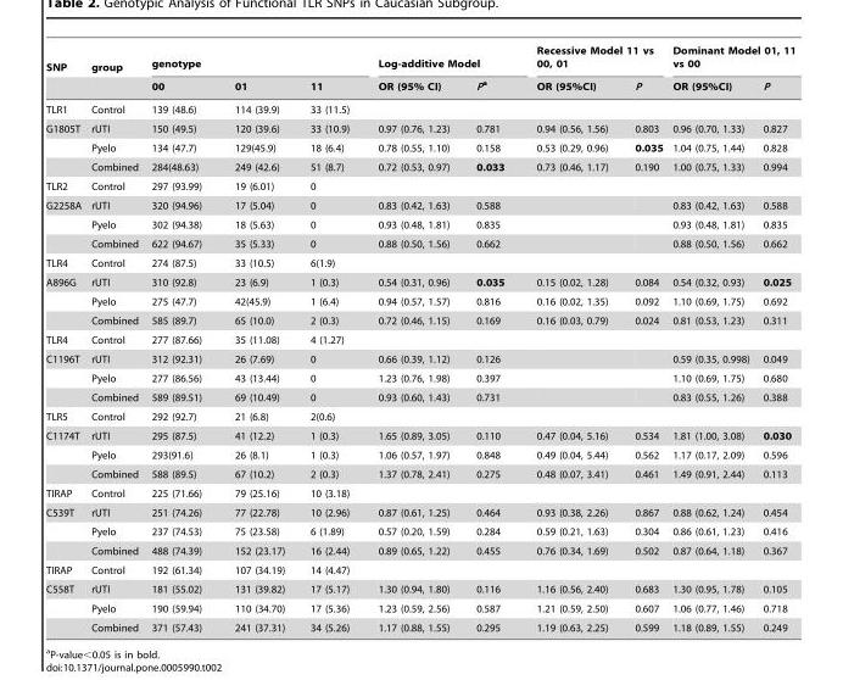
<table><thead><tr><td rowspan="2">SNP</td><td rowspan="2">group</td><td colspan="3">genotype</td><td colspan="2">Log-additive Model</td><td colspan="2">Recessive Model 11 vs 00, 01</td><td colspan="2">Dominant Model 01, 11 vs 00</td></tr><tr><td>00</td><td>01</td><td>11</td><td>OR (95% CI)</td><td>Pa</td><td>OR (95%CI)</td><td>P</td><td>OR (95%CI)</td><td>P</td></tr></thead><tbody><tr><td>TLR1</td><td>Control</td><td>139 (48.6)</td><td>114 (39.9)</td><td>33 (11.5)</td><td></td><td></td><td></td><td></td><td></td><td></td></tr><tr><td rowspan="3">G1805T</td><td>rUTI</td><td>150 (49.5)</td><td>120 (39.6)</td><td>33 (10.9)</td><td>0.97 (0.76, 1.23)</td><td>0.781</td><td>0.94 (0.56, 1.56)</td><td>0.803</td><td>0.96 (0.70, 1.33)</td><td>0.827</td></tr><tr><td>Pyelo</td><td>134 (47.7)</td><td>129(45.9)</td><td>18 (6.4)</td><td>0.78 (0.55, 1.10)</td><td>0.158</td><td>0.53 (0.29, 0.96)</td><td>0.035</td><td>1.04 (0.75, 1.44)</td><td>0.828</td></tr><tr><td>Combined</td><td>284(48.63)</td><td>249 (42.6)</td><td>51 (8.7)</td><td>0.72 (0.53, 0.97)</td><td>0.033</td><td>0.73 (0.46, 1.17)</td><td>0.190</td><td>1.00 (0.75, 1.33)</td><td>0.994</td></tr><tr><td>TLR2</td><td>Control</td><td>297 (93.99)</td><td>19 (6.01)</td><td>0</td><td></td><td></td><td></td><td></td><td></td><td></td></tr><tr><td rowspan="3">G2258A</td><td>rUTI</td><td>320 (94.96)</td><td>17 (5.04)</td><td>0</td><td>0.83 (0.42, 1.63)</td><td>0.588</td><td></td><td></td><td>0.83 (0.42, 1.63)</td><td>0.588</td></tr><tr><td>Pyelo</td><td>302 (94.38)</td><td>18 (5.63)</td><td>0</td><td>0.93 (0.48, 1.81)</td><td>0.835</td><td></td><td></td><td>0.93 (0.48, 1.81)</td><td>0.835</td></tr><tr><td>Combined</td><td>622 (94.67)</td><td>35 (5.33)</td><td>0</td><td>0.88 (0.50, 1.56)</td><td>0.662</td><td></td><td></td><td>0.88 (0.50, 1.56)</td><td>0.662</td></tr><tr><td>TLR4</td><td>Control</td><td>274 (87.5)</td><td>33 (10.5)</td><td>6(1.9)</td><td></td><td></td><td></td><td></td><td></td><td></td></tr><tr><td rowspan="3">A896G</td><td>rUTI</td><td>310 (92.8)</td><td>23 (6.9)</td><td>1 (0.3)</td><td>0.54 (0.31, 0.96)</td><td>0.035</td><td>0.15 (0.02, 1.28)</td><td>0.084</td><td>0.54 (0.32, 0.93)</td><td>0.025</td></tr><tr><td>Pyelo</td><td>275 (47.7)</td><td>42(45.9)</td><td>1 (6.4)</td><td>0.94 (0.57, 1.57)</td><td>0.816</td><td>0.16 (0.02, 1.35)</td><td>0.092</td><td>1.10 (0.69, 1.75)</td><td>0.692</td></tr><tr><td>Combined</td><td>585 (89.7)</td><td>65 (10.0)</td><td>2 (0.3)</td><td>0.72 (0.46, 1.15)</td><td>0.169</td><td>0.16 (0.03, 0.79)</td><td>0.024</td><td>0.81 (0.53, 1.23)</td><td>0.311</td></tr><tr><td>TLR4</td><td>Control</td><td>277 (87.66)</td><td>35 (11.08)</td><td>4 (1.27)</td><td></td><td></td><td></td><td></td><td></td><td></td></tr><tr><td rowspan="3">C1196T</td><td>rUTI</td><td>312 (92.31)</td><td>26 (7.69)</td><td>0</td><td>0.66 (0.39, 1.12)</td><td>0.126</td><td></td><td></td><td>0.59 (0.35, 0.998)</td><td>0.049</td></tr><tr><td>Pyelo</td><td>277 (86.56)</td><td>43 (13.44)</td><td>0</td><td>1.23 (0.76, 1.98)</td><td>0.397</td><td></td><td></td><td>1.10 (0.69, 1.75)</td><td>0.680</td></tr><tr><td>Combined</td><td>589 (89.51)</td><td>69 (10.49)</td><td>0</td><td>0.93 (0.60, 1.43)</td><td>0.731</td><td></td><td></td><td>0.83 (0.55, 1.26)</td><td>0.388</td></tr><tr><td>TLR5</td><td>Control</td><td>292 (92.7)</td><td>21 (6.8)</td><td>2(0.6)</td><td></td><td></td><td></td><td></td><td></td><td></td></tr><tr><td rowspan="3">C1174T</td><td>rUTI</td><td>295 (87.5)</td><td>41 (12.2)</td><td>1 (0.3)</td><td>1.65 (0.89, 3.05)</td><td>0.110</td><td>0.47 (0.04, 5.16)</td><td>0.534</td><td>1.81 (1.00, 3.08)</td><td>0.030</td></tr><tr><td>Pyelo</td><td>293(91.6)</td><td>26 (8.1)</td><td>1 (0.3)</td><td>1.06 (0.57, 1.97)</td><td>0.848</td><td>0.49 (0.04, 5.44)</td><td>0.562</td><td>1.17 (0.17, 2.09)</td><td>0.596</td></tr><tr><td>Combined</td><td>588 (89.5)</td><td>67 (10.2)</td><td>2 (0.3)</td><td>1.37 (0.78, 2.41)</td><td>0.275</td><td>0.48 (0.07, 3.41)</td><td>0.461</td><td>1.49 (0.91, 2.44)</td><td>0.113</td></tr><tr><td>TIRAP</td><td>Control</td><td>225 (71.66)</td><td>79 (25.16)</td><td>10 (3.18)</td><td></td><td></td><td></td><td></td><td></td><td></td></tr><tr><td rowspan="3">C539T</td><td>rUTI</td><td>251 (74.26)</td><td>77 (22.78)</td><td>10 (2.96)</td><td>0.87 (0.61, 1.25)</td><td>0.464</td><td>0.93 (0.38, 2.26)</td><td>0.867</td><td>0.88 (0.62, 1.24)</td><td>0.454</td></tr><tr><td>Pyelo</td><td>237 (74.53)</td><td>75 (23.58)</td><td>6 (1.89)</td><td>0.57 (0.20, 1.59)</td><td>0.284</td><td>0.59 (0.21, 1.63)</td><td>0.304</td><td>0.86 (0.61, 1.23)</td><td>0.416</td></tr><tr><td>Combined</td><td>488 (74.39)</td><td>152 (23.17)</td><td>16 (2.44)</td><td>0.89 (0.65, 1.22)</td><td>0.455</td><td>0.76 (0.34, 1.69)</td><td>0.502</td><td>0.87 (0.64, 1.18)</td><td>0.367</td></tr><tr><td>TIRAP</td><td>Control</td><td>192 (61.34)</td><td>107 (34.19)</td><td>14 (4.47)</td><td></td><td></td><td></td><td></td><td></td><td></td></tr><tr><td rowspan="3">C558T</td><td>rUTI</td><td>181 (55.02)</td><td>131 (39.82)</td><td>17 (5.17)</td><td>1.30 (0.94, 1.80)</td><td>0.116</td><td>1.16 (0.56, 2.40)</td><td>0.683</td><td>1.30 (0.95, 1.78)</td><td>0.105</td></tr><tr><td>Pyelo</td><td>190 (59.94)</td><td>110 (34.70)</td><td>17 (5.36)</td><td>1.23 (0.59, 2.56)</td><td>0.587</td><td>1.21 (0.59, 2.50)</td><td>0.607</td><td>1.06 (0.77, 1.46)</td><td>0.718</td></tr><tr><td>Combined</td><td>371 (57.43)</td><td>241 (37.31)</td><td>34 (5.26)</td><td>1.17 (0.88, 1.55)</td><td>0.295</td><td>1.19 (0.63, 2.25)</td><td>0.599</td><td>1.18 (0.89, 1.55)</td><td>0.249</td></tr></tbody></table>